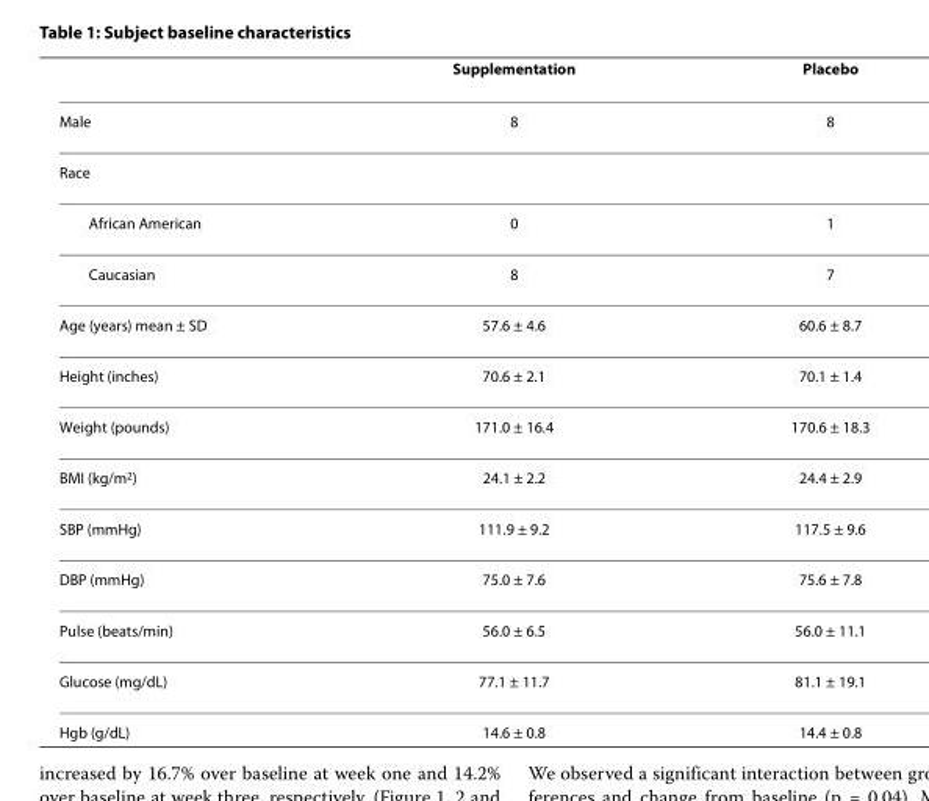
<table><thead><tr><td></td><td>Supplementation</td><td>Placebo</td></tr></thead><tbody><tr><td>Male</td><td>8</td><td>8</td></tr><tr><td colspan="3">Race</td></tr><tr><td>African American</td><td>0</td><td>1</td></tr><tr><td>Caucasian</td><td>8</td><td>7</td></tr><tr><td>Age (years) mean ± SD</td><td>57.6 ± 4.6</td><td>60.6 ± 8.7</td></tr><tr><td>Height (inches)</td><td>70.6 ± 2.1</td><td>70.1 ± 1.4</td></tr><tr><td>Weight (pounds)</td><td>171.0 ± 16.4</td><td>170.6 ± 18.3</td></tr><tr><td>BMI (kg/m<sup>2</sup>)</td><td>24.1 ± 2.2</td><td>24.4 ± 2.9</td></tr><tr><td>SBP (mmHg)</td><td>111.9 ± 9.2</td><td>117.5 ± 9.6</td></tr><tr><td>DBP (mmHg)</td><td>75.0 ± 7.6</td><td>75.6 ± 7.8</td></tr><tr><td>Pulse (beats/min)</td><td>56.0 ± 6.5</td><td>56.0 ± 11.1</td></tr><tr><td>Glucose (mg/dL)</td><td>77.1 ± 11.7</td><td>81.1 ± 19.1</td></tr><tr><td>Hgb (g/dL)</td><td>14.6 ± 0.8</td><td>14.4 ± 0.8</td></tr></tbody></table>